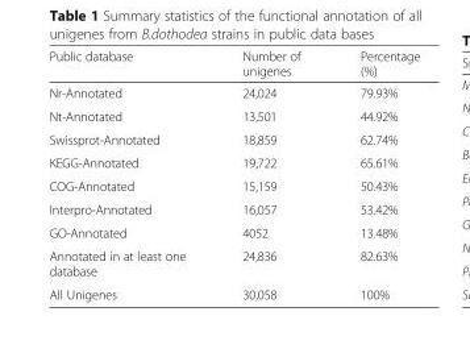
<table><thead><tr><td>Public database</td><td>Number of unigenes</td><td>Percentage (%)</td></tr></thead><tbody><tr><td>Nr-Annotated</td><td>24,024</td><td>79.93%</td></tr><tr><td>Nt-Annotated</td><td>13,501</td><td>44.92%</td></tr><tr><td>Swissprot-Annotated</td><td>18,859</td><td>62.74%</td></tr><tr><td>KEGG-Annotated</td><td>19,722</td><td>65.61%</td></tr><tr><td>COG-Annotated</td><td>15,159</td><td>50.43%</td></tr><tr><td>Interpro-Annotated</td><td>16,057</td><td>53.42%</td></tr><tr><td>GO-Annotated</td><td>4052</td><td>13.48%</td></tr><tr><td>Annotated in at least one database</td><td>24,836</td><td>82.63%</td></tr><tr><td>All Unigenes</td><td>30,058</td><td>100%</td></tr></tbody></table>